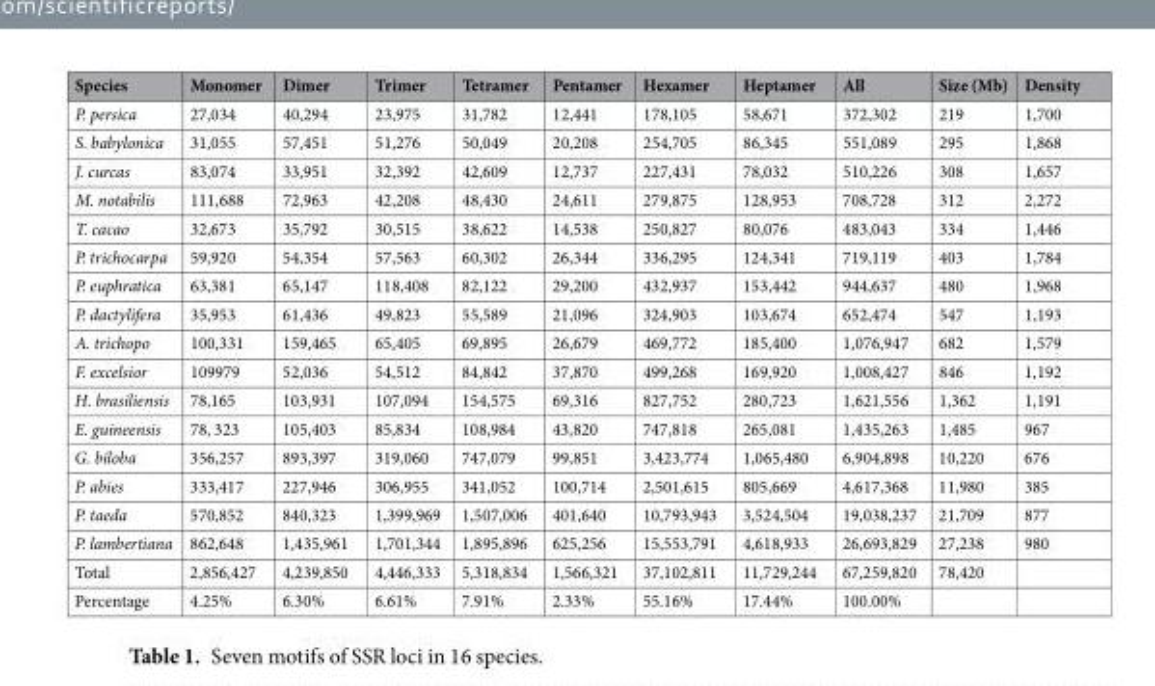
<table><thead><tr><td>Species</td><td>Monomer</td><td>Dimer</td><td>Trimer</td><td>Tetramer</td><td>Pentamer</td><td>Hexamer</td><td>Heptamer</td><td>All</td><td>Size (Mb)</td><td>Density</td></tr></thead><tbody><tr><td>P. persica</td><td>27,034</td><td>40,294</td><td>23,975</td><td>31,782</td><td>12,441</td><td>178,105</td><td>58,671</td><td>372,302</td><td>219</td><td>1,700</td></tr><tr><td>S. babylonica</td><td>31,055</td><td>57,451</td><td>51,276</td><td>50,049</td><td>20,208</td><td>254,705</td><td>86,345</td><td>551,089</td><td>295</td><td>1,868</td></tr><tr><td>J. curcas</td><td>83,074</td><td>33,951</td><td>32,392</td><td>42,609</td><td>12,737</td><td>227,431</td><td>78,032</td><td>510,226</td><td>308</td><td>1,657</td></tr><tr><td>M. notabilis</td><td>111,688</td><td>72,963</td><td>42,208</td><td>48,430</td><td>24,611</td><td>279,875</td><td>128,953</td><td>708,728</td><td>312</td><td>2,272</td></tr><tr><td>T. cacao</td><td>32,673</td><td>35,792</td><td>30,515</td><td>38,622</td><td>14,538</td><td>250,827</td><td>80,076</td><td>483,043</td><td>334</td><td>1,446</td></tr><tr><td>P. trichocarpa</td><td>59,920</td><td>54,354</td><td>57,563</td><td>60,302</td><td>26,344</td><td>336,295</td><td>124,341</td><td>719,119</td><td>403</td><td>1,784</td></tr><tr><td>P. euphratica</td><td>63,381</td><td>65,147</td><td>118,408</td><td>82,122</td><td>29,200</td><td>432,937</td><td>153,442</td><td>944,637</td><td>480</td><td>1,968</td></tr><tr><td>P. dactylifera</td><td>35,953</td><td>61,436</td><td>49,823</td><td>55,589</td><td>21,096</td><td>324,903</td><td>103,674</td><td>652,474</td><td>547</td><td>1,193</td></tr><tr><td>A. trichopo</td><td>100,331</td><td>159,465</td><td>65,405</td><td>69,895</td><td>26,679</td><td>469,772</td><td>185,400</td><td>1,076,947</td><td>682</td><td>1,579</td></tr><tr><td>F. excelsior</td><td>109979</td><td>52,036</td><td>54,512</td><td>84,842</td><td>37,870</td><td>499,268</td><td>169,920</td><td>1,008,427</td><td>846</td><td>1,192</td></tr><tr><td>H. brasiliensis</td><td>78,165</td><td>103,931</td><td>107,094</td><td>154,575</td><td>69,316</td><td>827,752</td><td>280,723</td><td>1,621,556</td><td>1,362</td><td>1,191</td></tr><tr><td>E. guineensis</td><td>78, 323</td><td>105,403</td><td>85,834</td><td>108,984</td><td>43,820</td><td>747,818</td><td>265,081</td><td>1,435,263</td><td>1,485</td><td>967</td></tr><tr><td>G. biloba</td><td>356,257</td><td>893,397</td><td>319,060</td><td>747,079</td><td>99,851</td><td>3,423,774</td><td>1,065,480</td><td>6,904,898</td><td>10,220</td><td>676</td></tr><tr><td>P. abies</td><td>333,417</td><td>227,946</td><td>306,955</td><td>341,052</td><td>100,714</td><td>2,501,615</td><td>805,669</td><td>4,617,368</td><td>11,980</td><td>385</td></tr><tr><td>P. taeda</td><td>570,852</td><td>840,323</td><td>1,399,969</td><td>1,507,006</td><td>401,640</td><td>10,793,943</td><td>3,524,504</td><td>19,038,237</td><td>21,709</td><td>877</td></tr><tr><td>P. lambertiana</td><td>862,648</td><td>1,435,961</td><td>1,701,344</td><td>1,895,896</td><td>625,256</td><td>15,553,791</td><td>4,618,933</td><td>26,693,829</td><td>27,238</td><td>980</td></tr><tr><td>Total</td><td>2,856,427</td><td>4,239,850</td><td>4,446,333</td><td>5,318,834</td><td>1,566,321</td><td>37,102,811</td><td>11,729,244</td><td>67,259,820</td><td>78,420</td><td></td></tr><tr><td>Percentage</td><td>4.25%</td><td>6.30%</td><td>6.61%</td><td>7.91%</td><td>2.33%</td><td>55.16%</td><td>17.44%</td><td>100.00%</td><td></td><td></td></tr></tbody></table>